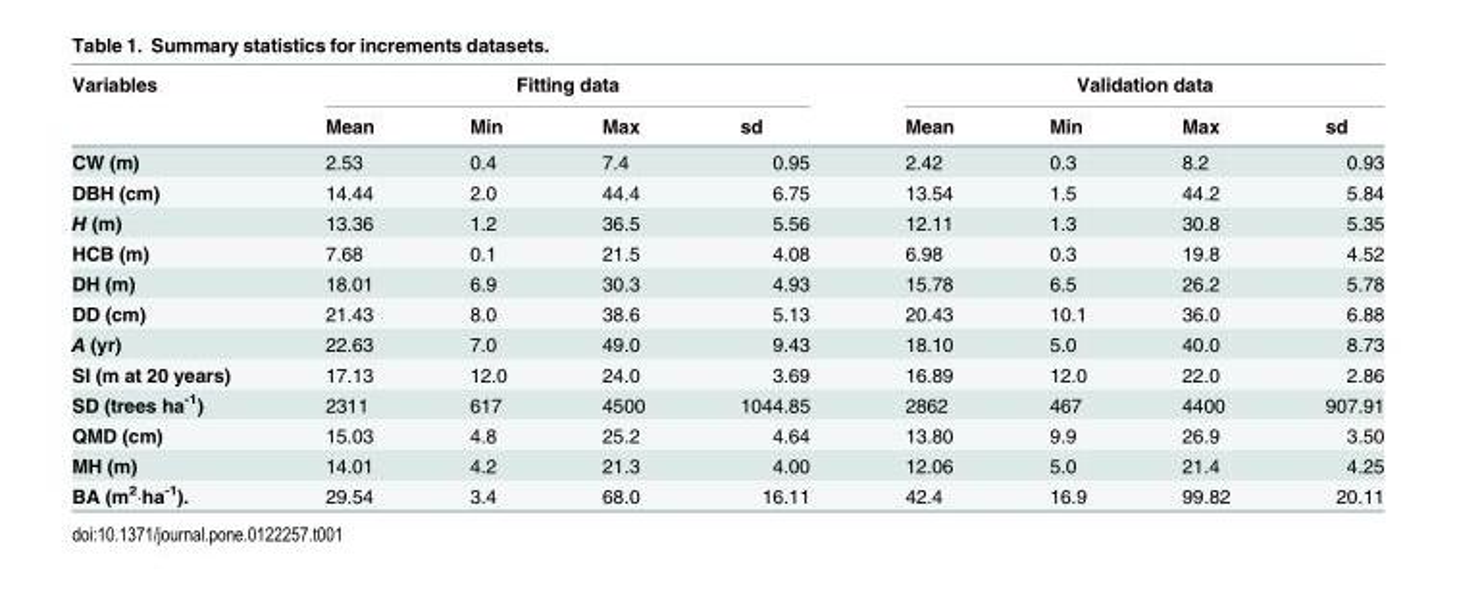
<table><thead><tr><td rowspan="2">Variables</td><td colspan="4">Fitting data</td><td colspan="4">Validation data</td></tr><tr><td>Mean</td><td>Min</td><td>Max</td><td>sd</td><td>Mean</td><td>Min</td><td>Max</td><td>sd</td></tr></thead><tbody><tr><td>CW (m)</td><td>2.53</td><td>0.4</td><td>7.4</td><td>0.95</td><td>2.42</td><td>0.3</td><td>8.2</td><td>0.93</td></tr><tr><td>DBH (cm)</td><td>14.44</td><td>2.0</td><td>44.4</td><td>6.75</td><td>13.54</td><td>1.5</td><td>44.2</td><td>5.84</td></tr><tr><td>H (m)</td><td>13.36</td><td>1.2</td><td>36.5</td><td>5.56</td><td>12.11</td><td>1.3</td><td>30.8</td><td>5.35</td></tr><tr><td>HCB (m)</td><td>7.68</td><td>0.1</td><td>21.5</td><td>4.08</td><td>6.98</td><td>0.3</td><td>19.8</td><td>4.52</td></tr><tr><td>DH (m)</td><td>18.01</td><td>6.9</td><td>30.3</td><td>4.93</td><td>15.78</td><td>6.5</td><td>26.2</td><td>5.78</td></tr><tr><td>DD (cm)</td><td>21.43</td><td>8.0</td><td>38.6</td><td>5.13</td><td>20.43</td><td>10.1</td><td>36.0</td><td>6.88</td></tr><tr><td>A (yr)</td><td>22.63</td><td>7.0</td><td>49.0</td><td>9.43</td><td>18.10</td><td>5.0</td><td>40.0</td><td>8.73</td></tr><tr><td>SI (m at 20 years)</td><td>17.13</td><td>12.0</td><td>24.0</td><td>3.69</td><td>16.89</td><td>12.0</td><td>22.0</td><td>2.86</td></tr><tr><td>SD (trees ha<sup>-1</sup>)</td><td>2311</td><td>617</td><td>4500</td><td>1044.85</td><td>2862</td><td>467</td><td>4400</td><td>907.91</td></tr><tr><td>QMD (cm)</td><td>15.03</td><td>4.8</td><td>25.2</td><td>4.64</td><td>13.80</td><td>9.9</td><td>26.9</td><td>3.50</td></tr><tr><td>MH (m)</td><td>14.01</td><td>4.2</td><td>21.3</td><td>4.00</td><td>12.06</td><td>5.0</td><td>21.4</td><td>4.25</td></tr><tr><td>BA (m<sup>2</sup>·ha<sup>-1</sup>).</td><td>29.54</td><td>3.4</td><td>68.0</td><td>16.11</td><td>42.4</td><td>16.9</td><td>99.82</td><td>20.11</td></tr></tbody></table>